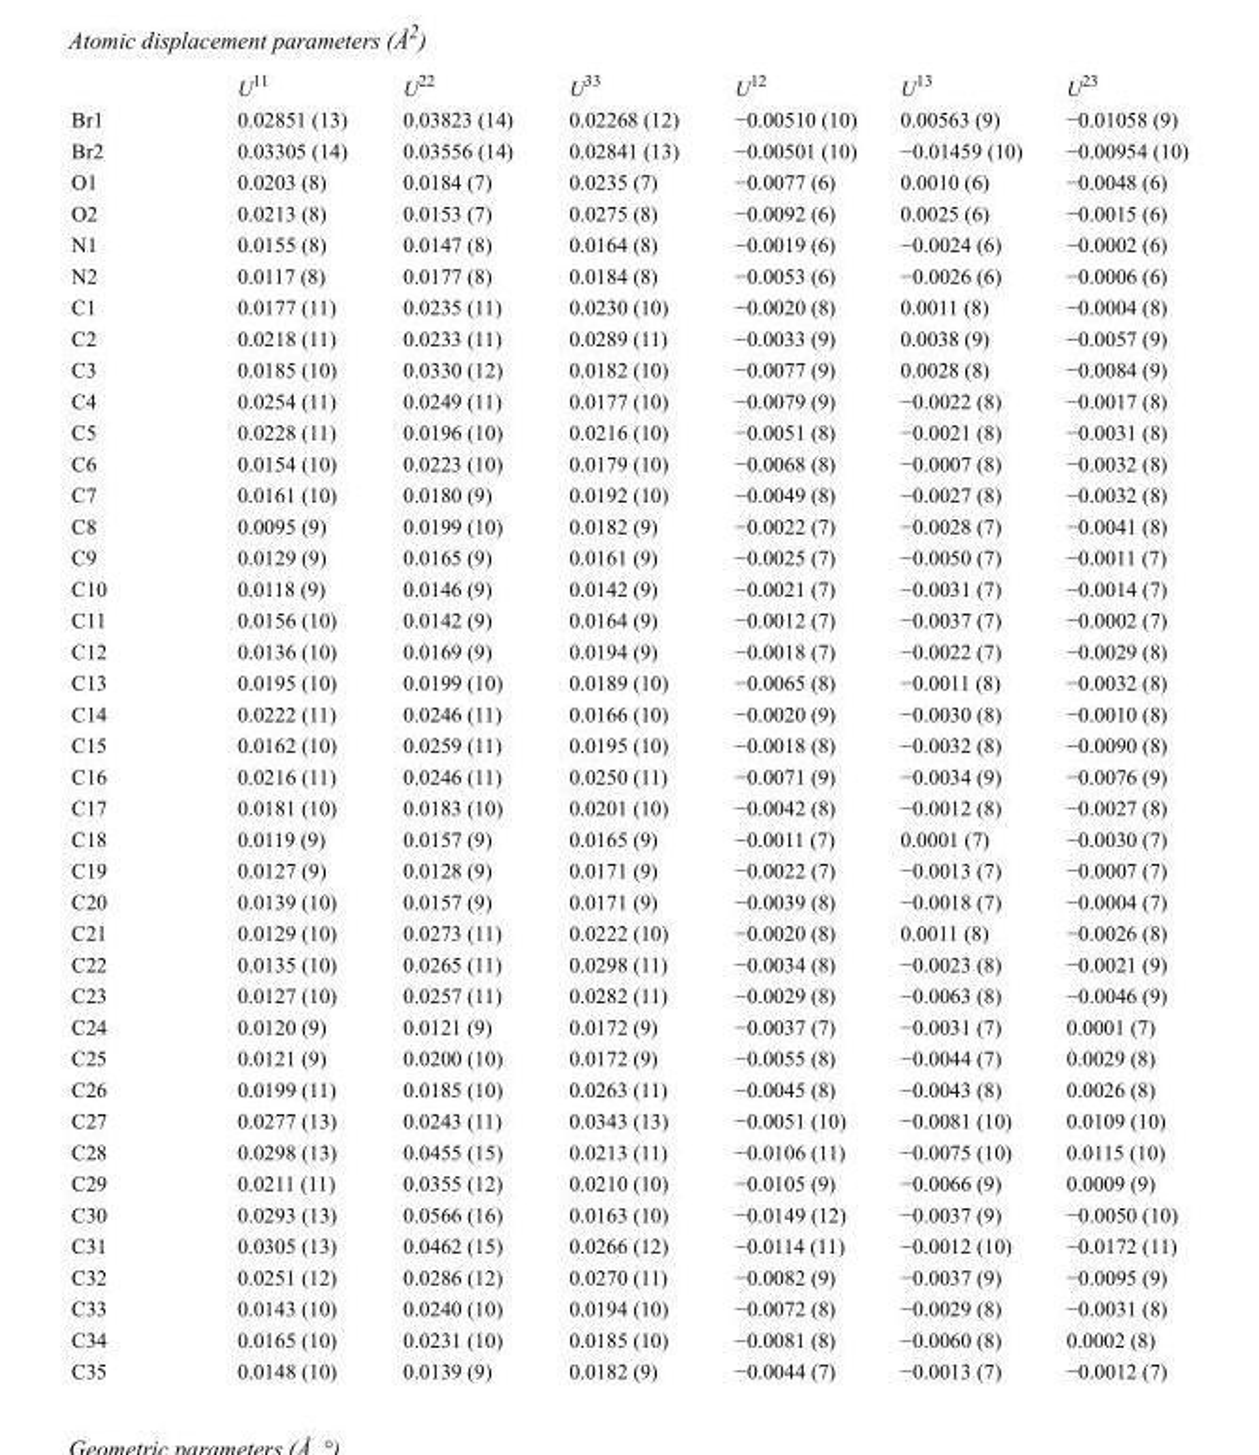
<table><thead><tr><td></td><td>U<sup>11</sup></td><td>U<sup>22</sup></td><td>U<sup>33</sup></td><td>U<sup>12</sup></td><td>U<sup>13</sup></td><td>U<sup>23</sup></td></tr></thead><tbody><tr><td>Br1</td><td>0.02851 (13)</td><td>0.03823 (14)</td><td>0.02268 (12)</td><td>−0.00510 (10)</td><td>0.00563 (9)</td><td>−0.01058 (9)</td></tr><tr><td>Br2</td><td>0.03305 (14)</td><td>0.03556 (14)</td><td>0.02841 (13)</td><td>−0.00501 (10)</td><td>−0.01459 (10)</td><td>−0.00954 (10)</td></tr><tr><td>O1</td><td>0.0203 (8)</td><td>0.0184 (7)</td><td>0.0235 (7)</td><td>−0.0077 (6)</td><td>0.0010 (6)</td><td>−0.0048 (6)</td></tr><tr><td>O2</td><td>0.0213 (8)</td><td>0.0153 (7)</td><td>0.0275 (8)</td><td>−0.0092 (6)</td><td>0.0025 (6)</td><td>−0.0015 (6)</td></tr><tr><td>N1</td><td>0.0155 (8)</td><td>0.0147 (8)</td><td>0.0164 (8)</td><td>−0.0019 (6)</td><td>−0.0024 (6)</td><td>−0.0002 (6)</td></tr><tr><td>N2</td><td>0.0117 (8)</td><td>0.0177 (8)</td><td>0.0184 (8)</td><td>−0.0053 (6)</td><td>−0.0026 (6)</td><td>−0.0006 (6)</td></tr><tr><td>C1</td><td>0.0177 (11)</td><td>0.0235 (11)</td><td>0.0230 (10)</td><td>−0.0020 (8)</td><td>0.0011 (8)</td><td>−0.0004 (8)</td></tr><tr><td>C2</td><td>0.0218 (11)</td><td>0.0233 (11)</td><td>0.0289 (11)</td><td>−0.0033 (9)</td><td>0.0038 (9)</td><td>−0.0057 (9)</td></tr><tr><td>C3</td><td>0.0185 (10)</td><td>0.0330 (12)</td><td>0.0182 (10)</td><td>−0.0077 (9)</td><td>0.0028 (8)</td><td>−0.0084 (9)</td></tr><tr><td>C4</td><td>0.0254 (11)</td><td>0.0249 (11)</td><td>0.0177 (10)</td><td>−0.0079 (9)</td><td>−0.0022 (8)</td><td>−0.0017 (8)</td></tr><tr><td>C5</td><td>0.0228 (11)</td><td>0.0196 (10)</td><td>0.0216 (10)</td><td>−0.0051 (8)</td><td>−0.0021 (8)</td><td>−0.0031 (8)</td></tr><tr><td>C6</td><td>0.0154 (10)</td><td>0.0223 (10)</td><td>0.0179 (10)</td><td>−0.0068 (8)</td><td>−0.0007 (8)</td><td>−0.0032 (8)</td></tr><tr><td>C7</td><td>0.0161 (10)</td><td>0.0180 (9)</td><td>0.0192 (10)</td><td>−0.0049 (8)</td><td>−0.0027 (8)</td><td>−0.0032 (8)</td></tr><tr><td>C8</td><td>0.0095 (9)</td><td>0.0199 (10)</td><td>0.0182 (9)</td><td>−0.0022 (7)</td><td>−0.0028 (7)</td><td>−0.0041 (8)</td></tr><tr><td>C9</td><td>0.0129 (9)</td><td>0.0165 (9)</td><td>0.0161 (9)</td><td>−0.0025 (7)</td><td>−0.0050 (7)</td><td>−0.0011 (7)</td></tr><tr><td>C10</td><td>0.0118 (9)</td><td>0.0146 (9)</td><td>0.0142 (9)</td><td>−0.0021 (7)</td><td>−0.0031 (7)</td><td>−0.0014 (7)</td></tr><tr><td>C11</td><td>0.0156 (10)</td><td>0.0142 (9)</td><td>0.0164 (9)</td><td>−0.0012 (7)</td><td>−0.0037 (7)</td><td>−0.0002 (7)</td></tr><tr><td>C12</td><td>0.0136 (10)</td><td>0.0169 (9)</td><td>0.0194 (9)</td><td>−0.0018 (7)</td><td>−0.0022 (7)</td><td>−0.0029 (8)</td></tr><tr><td>C13</td><td>0.0195 (10)</td><td>0.0199 (10)</td><td>0.0189 (10)</td><td>−0.0065 (8)</td><td>−0.0011 (8)</td><td>−0.0032 (8)</td></tr><tr><td>C14</td><td>0.0222 (11)</td><td>0.0246 (11)</td><td>0.0166 (10)</td><td>−0.0020 (9)</td><td>−0.0030 (8)</td><td>−0.0010 (8)</td></tr><tr><td>C15</td><td>0.0162 (10)</td><td>0.0259 (11)</td><td>0.0195 (10)</td><td>−0.0018 (8)</td><td>−0.0032 (8)</td><td>−0.0090 (8)</td></tr><tr><td>C16</td><td>0.0216 (11)</td><td>0.0246 (11)</td><td>0.0250 (11)</td><td>−0.0071 (9)</td><td>−0.0034 (9)</td><td>−0.0076 (9)</td></tr><tr><td>C17</td><td>0.0181 (10)</td><td>0.0183 (10)</td><td>0.0201 (10)</td><td>−0.0042 (8)</td><td>−0.0012 (8)</td><td>−0.0027 (8)</td></tr><tr><td>C18</td><td>0.0119 (9)</td><td>0.0157 (9)</td><td>0.0165 (9)</td><td>−0.0011 (7)</td><td>0.0001 (7)</td><td>−0.0030 (7)</td></tr><tr><td>C19</td><td>0.0127 (9)</td><td>0.0128 (9)</td><td>0.0171 (9)</td><td>−0.0022 (7)</td><td>−0.0013 (7)</td><td>−0.0007 (7)</td></tr><tr><td>C20</td><td>0.0139 (10)</td><td>0.0157 (9)</td><td>0.0171 (9)</td><td>−0.0039 (8)</td><td>−0.0018 (7)</td><td>−0.0004 (7)</td></tr><tr><td>C21</td><td>0.0129 (10)</td><td>0.0273 (11)</td><td>0.0222 (10)</td><td>−0.0020 (8)</td><td>0.0011 (8)</td><td>−0.0026 (8)</td></tr><tr><td>C22</td><td>0.0135 (10)</td><td>0.0265 (11)</td><td>0.0298 (11)</td><td>−0.0034 (8)</td><td>−0.0023 (8)</td><td>−0.0021 (9)</td></tr><tr><td>C23</td><td>0.0127 (10)</td><td>0.0257 (11)</td><td>0.0282 (11)</td><td>−0.0029 (8)</td><td>−0.0063 (8)</td><td>−0.0046 (9)</td></tr><tr><td>C24</td><td>0.0120 (9)</td><td>0.0121 (9)</td><td>0.0172 (9)</td><td>−0.0037 (7)</td><td>−0.0031 (7)</td><td>0.0001 (7)</td></tr><tr><td>C25</td><td>0.0121 (9)</td><td>0.0200 (10)</td><td>0.0172 (9)</td><td>−0.0055 (8)</td><td>−0.0044 (7)</td><td>0.0029 (8)</td></tr><tr><td>C26</td><td>0.0199 (11)</td><td>0.0185 (10)</td><td>0.0263 (11)</td><td>−0.0045 (8)</td><td>−0.0043 (8)</td><td>0.0026 (8)</td></tr><tr><td>C27</td><td>0.0277 (13)</td><td>0.0243 (11)</td><td>0.0343 (13)</td><td>−0.0051 (10)</td><td>−0.0081 (10)</td><td>0.0109 (10)</td></tr><tr><td>C28</td><td>0.0298 (13)</td><td>0.0455 (15)</td><td>0.0213 (11)</td><td>−0.0106 (11)</td><td>−0.0075 (10)</td><td>0.0115 (10)</td></tr><tr><td>C29</td><td>0.0211 (11)</td><td>0.0355 (12)</td><td>0.0210 (10)</td><td>−0.0105 (9)</td><td>−0.0066 (9)</td><td>0.0009 (9)</td></tr><tr><td>C30</td><td>0.0293 (13)</td><td>0.0566 (16)</td><td>0.0163 (10)</td><td>−0.0149 (12)</td><td>−0.0037 (9)</td><td>−0.0050 (10)</td></tr><tr><td>C31</td><td>0.0305 (13)</td><td>0.0462 (15)</td><td>0.0266 (12)</td><td>−0.0114 (11)</td><td>−0.0012 (10)</td><td>−0.0172 (11)</td></tr><tr><td>C32</td><td>0.0251 (12)</td><td>0.0286 (12)</td><td>0.0270 (11)</td><td>−0.0082 (9)</td><td>−0.0037 (9)</td><td>−0.0095 (9)</td></tr><tr><td>C33</td><td>0.0143 (10)</td><td>0.0240 (10)</td><td>0.0194 (10)</td><td>−0.0072 (8)</td><td>−0.0029 (8)</td><td>−0.0031 (8)</td></tr><tr><td>C34</td><td>0.0165 (10)</td><td>0.0231 (10)</td><td>0.0185 (10)</td><td>−0.0081 (8)</td><td>−0.0060 (8)</td><td>0.0002 (8)</td></tr><tr><td>C35</td><td>0.0148 (10)</td><td>0.0139 (9)</td><td>0.0182 (9)</td><td>−0.0044 (7)</td><td>−0.0013 (7)</td><td>−0.0012 (7)</td></tr></tbody></table>